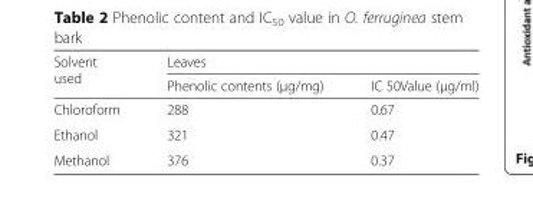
<table><thead><tr><td rowspan="2">Solvent used</td><td colspan="2">Leaves</td></tr><tr><td>Phenolic contents (μg/mg)</td><td>IC 50Value (μg/ml)</td></tr></thead><tbody><tr><td>Chloroform</td><td>288</td><td>0.67</td></tr><tr><td>Ethanol</td><td>321</td><td>0.47</td></tr><tr><td>Methanol</td><td>376</td><td>0.37</td></tr></tbody></table>